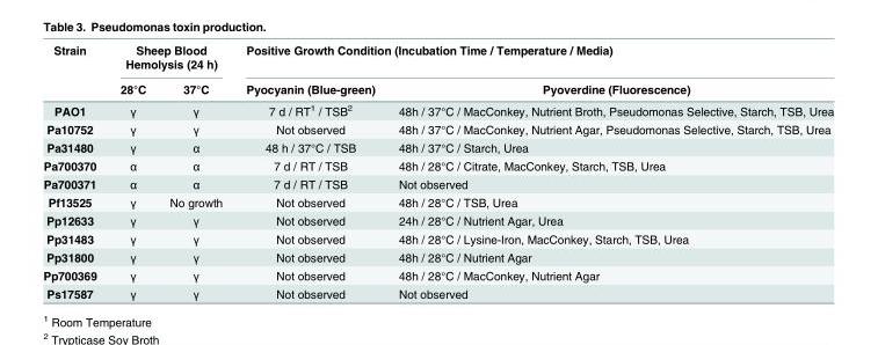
<table><thead><tr><td rowspan="2">Strain</td><td colspan="2">Sheep Blood Hemolysis (24 h)</td><td colspan="2">Positive Growth Condition (Incubation Time / Temperature / Media)</td></tr><tr><td>28°C</td><td>37°C</td><td>Pyocyanin (Blue-green)</td><td>Pyoverdine (Fluorescence)</td></tr></thead><tbody><tr><td>PAO1</td><td>γ</td><td>γ</td><td>7 d / RT<sup>1</sup> / TSB<sup>2</sup></td><td>48h / 37°C / MacConkey, Nutrient Broth, Pseudomonas Selective, Starch, TSB, Urea</td></tr><tr><td>Pa10752</td><td>γ</td><td>γ</td><td>Not observed</td><td>48h / 37°C / MacConkey, Nutrient Agar, Pseudomonas Selective, Starch, TSB, Urea</td></tr><tr><td>Pa31480</td><td>γ</td><td>α</td><td>48 h / 37°C / TSB</td><td>48h / 37°C / Starch, Urea</td></tr><tr><td>Pa700370</td><td>α</td><td>α</td><td>7 d / RT / TSB</td><td>48h / 28°C / Citrate, MacConkey, Starch, TSB, Urea</td></tr><tr><td>Pa700371</td><td>α</td><td>α</td><td>7 d / RT / TSB</td><td>Not observed</td></tr><tr><td>Pf13525</td><td>γ</td><td>No growth</td><td>Not observed</td><td>48h / 28°C / TSB, Urea</td></tr><tr><td>Pp12633</td><td>γ</td><td>γ</td><td>Not observed</td><td>24h / 28°C / Nutrient Agar, Urea</td></tr><tr><td>Pp31483</td><td>γ</td><td>γ</td><td>Not observed</td><td>48h / 28°C / Lysine-Iron, MacConkey, Starch, TSB, Urea</td></tr><tr><td>Pp31800</td><td>γ</td><td>γ</td><td>Not observed</td><td>48h / 28°C / Nutrient Agar</td></tr><tr><td>Pp700369</td><td>γ</td><td>γ</td><td>Not observed</td><td>48h / 28°C / MacConkey, Nutrient Agar</td></tr><tr><td>Ps17587</td><td>γ</td><td>γ</td><td>Not observed</td><td>Not observed</td></tr></tbody></table>